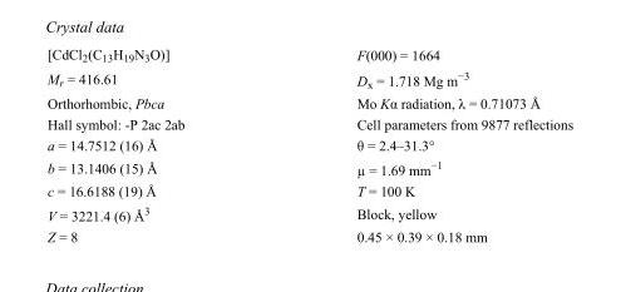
<table><tbody><tr><td>[CdCl<sub>2</sub>(C<sub>13</sub>H<sub>19</sub>N<sub>3</sub>O)]</td><td>F(000) = 1664</td></tr><tr><td>M<sub>r</sub> = 416.61</td><td>D<sub>x</sub> = 1.718 Mg m<sup>−3</sup></td></tr><tr><td>Orthorhombic, Pbca</td><td>Mo Kα radiation, λ = 0.71073 Å</td></tr><tr><td>Hall symbol: -P 2ac 2ab</td><td>Cell parameters from 9877 reflections</td></tr><tr><td>a = 14.7512 (16) Å</td><td>θ = 2.4–31.3°</td></tr><tr><td>b = 13.1406 (15) Å</td><td>µ = 1.69 mm<sup>−1</sup></td></tr><tr><td>c = 16.6188 (19) Å</td><td>T = 100 K</td></tr><tr><td>V = 3221.4 (6) Å<sup>3</sup></td><td>Block, yellow</td></tr><tr><td>Z = 8</td><td>0.45 × 0.39 × 0.18 mm</td></tr></tbody></table>